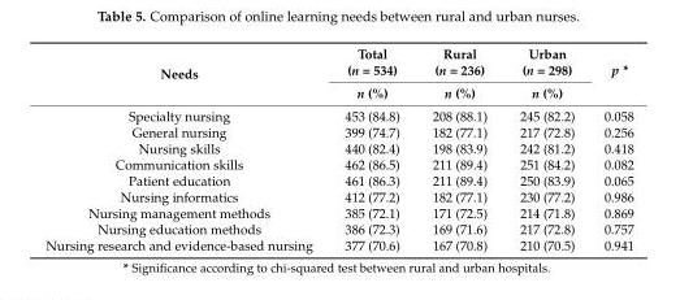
<table><thead><tr><td rowspan="2">Needs</td><td rowspan="2">Total (n = 534) n (%)</td><td rowspan="2">Rural (n = 236) n (%)</td><td rowspan="2">Urban (n = 298) n (%)</td><td rowspan="2">p *</td></tr><tr></tr></thead><tbody><tr><td>Specialty nursing</td><td>453 (84.8)</td><td>208 (88.1)</td><td>245 (82.2)</td><td>0.058</td></tr><tr><td>General nursing</td><td>399 (74.7)</td><td>182 (77.1)</td><td>217 (72.8)</td><td>0.256</td></tr><tr><td>Nursing skills</td><td>440 (82.4)</td><td>198 (83.9)</td><td>242 (81.2)</td><td>0.418</td></tr><tr><td>Communication skills</td><td>462 (86.5)</td><td>211 (89.4)</td><td>251 (84.2)</td><td>0.082</td></tr><tr><td>Patient education</td><td>461 (86.3)</td><td>211 (89.4)</td><td>250 (83.9)</td><td>0.065</td></tr><tr><td>Nursing informatics</td><td>412 (77.2)</td><td>182 (77.1)</td><td>230 (77.2)</td><td>0.986</td></tr><tr><td>Nursing management methods</td><td>385 (72.1)</td><td>171 (72.5)</td><td>214 (71.8)</td><td>0.869</td></tr><tr><td>Nursing education methods</td><td>386 (72.3)</td><td>169 (71.6)</td><td>217 (72.8)</td><td>0.757</td></tr><tr><td>Nursing research and evidence-based nursing</td><td>377 (70.6)</td><td>167 (70.8)</td><td>210 (70.5)</td><td>0.941</td></tr></tbody></table>